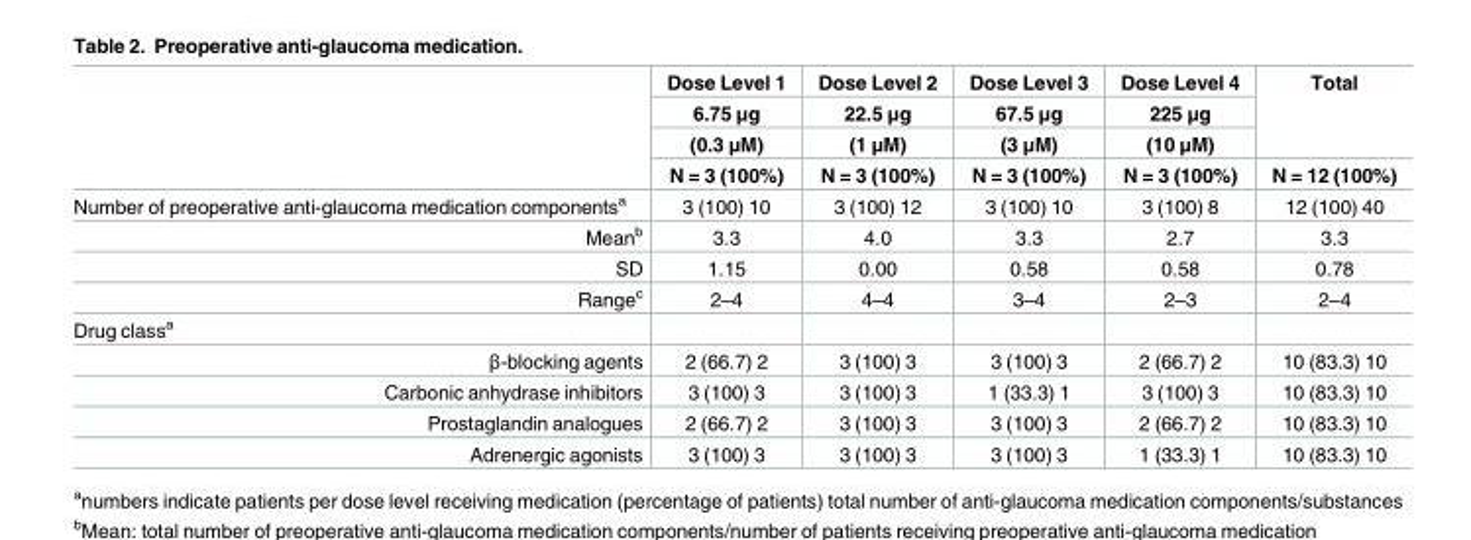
<table><thead><tr><td rowspan="4"></td><td rowspan="4">Dose Level 1 6.75 μg (0.3 μM) N = 3 (100%)</td><td rowspan="4">Dose Level 2 22.5 μg (1 μM) N = 3 (100%)</td><td rowspan="4">Dose Level 3 67.5 μg (3 μM) N = 3 (100%)</td><td rowspan="4">Dose Level 4 225 μg (10 μM) N = 3 (100%)</td><td rowspan="4">Total N = 12 (100%)</td></tr><tr></tr><tr></tr><tr></tr></thead><tbody><tr><td>Number of preoperative anti-glaucoma medication components<sup>a</sup></td><td>3 (100) 10</td><td>3 (100) 12</td><td>3 (100) 10</td><td>3 (100) 8</td><td>12 (100) 40</td></tr><tr><td>Mean<sup>b</sup></td><td>3.3</td><td>4.0</td><td>3.3</td><td>2.7</td><td>3.3</td></tr><tr><td>SD</td><td>1.15</td><td>0.00</td><td>0.58</td><td>0.58</td><td>0.78</td></tr><tr><td>Range<sup>c</sup></td><td>2–4</td><td>4–4</td><td>3–4</td><td>2–3</td><td>2–4</td></tr><tr><td colspan="6">Drug class<sup>a</sup></td></tr><tr><td>β-blocking agents</td><td>2 (66.7) 2</td><td>3 (100) 3</td><td>3 (100) 3</td><td>2 (66.7) 2</td><td>10 (83.3) 10</td></tr><tr><td>Carbonic anhydrase inhibitors</td><td>3 (100) 3</td><td>3 (100) 3</td><td>1 (33.3) 1</td><td>3 (100) 3</td><td>10 (83.3) 10</td></tr><tr><td>Prostaglandin analogues</td><td>2 (66.7) 2</td><td>3 (100) 3</td><td>3 (100) 3</td><td>2 (66.7) 2</td><td>10 (83.3) 10</td></tr><tr><td>Adrenergic agonists</td><td>3 (100) 3</td><td>3 (100) 3</td><td>3 (100) 3</td><td>1 (33.3) 1</td><td>10 (83.3) 10</td></tr></tbody></table>